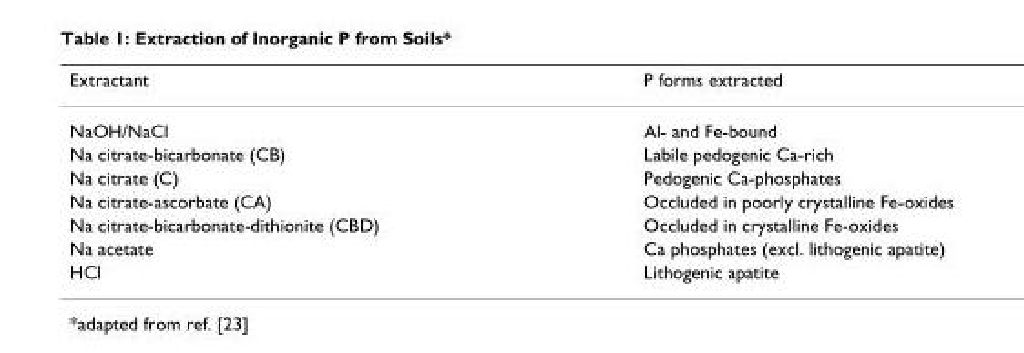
<table><thead><tr><td>Extractant</td><td>P forms extracted</td></tr></thead><tbody><tr><td>NaOH/NaCl</td><td>Al- and Fe-bound</td></tr><tr><td>Na citrate-bicarbonate (CB)</td><td>Labile pedogenic Ca-rich</td></tr><tr><td>Na citrate (C)</td><td>Pedogenic Ca-phosphates</td></tr><tr><td>Na citrate-ascorbate (CA)</td><td>Occluded in poorly crystalline Fe-oxides</td></tr><tr><td>Na citrate-bicarbonate-dithionite (CBD)</td><td>Occluded in crystalline Fe-oxides</td></tr><tr><td>Na acetate</td><td>Ca phosphates (excl. lithogenic apatite)</td></tr><tr><td>HCl</td><td>Lithogenic apatite</td></tr></tbody></table>